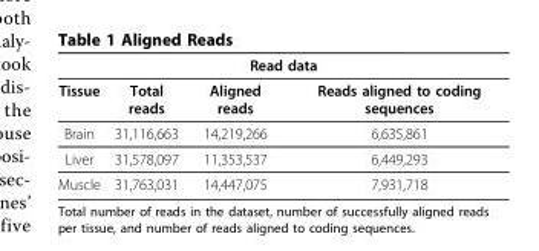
<table><thead><tr><td colspan="4">Read data</td></tr><tr><td>Tissue</td><td>Total reads</td><td>Aligned reads</td><td>Reads aligned to coding sequences</td></tr></thead><tbody><tr><td>Brain</td><td>31,116,663</td><td>14,219,266</td><td>6,635,861</td></tr><tr><td>Liver</td><td>31,578,097</td><td>11,353,537</td><td>6,449,293</td></tr><tr><td>Muscle</td><td>31,763,031</td><td>14,447,075</td><td>7,931,718</td></tr></tbody></table>